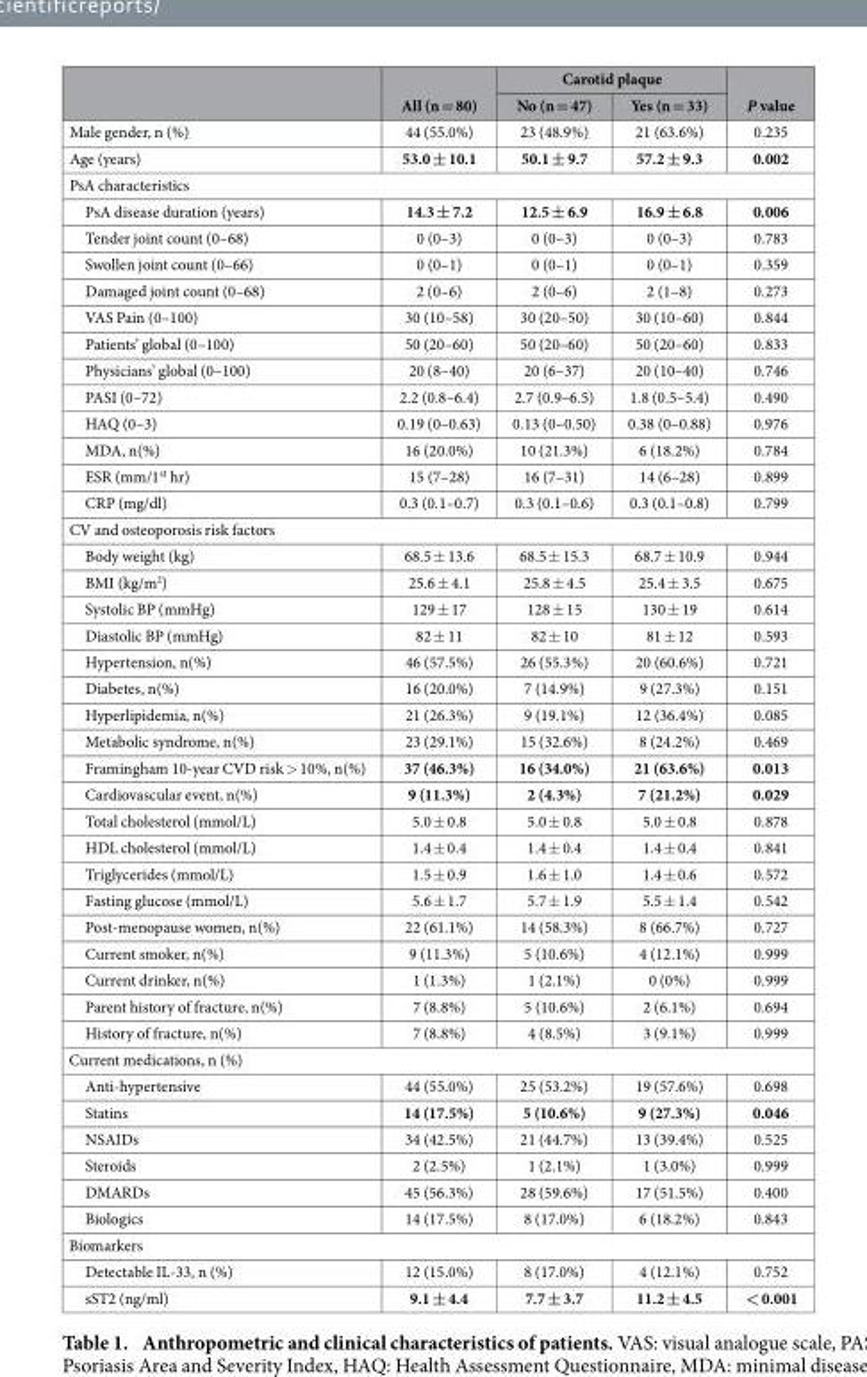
<table><thead><tr><td rowspan="2"></td><td rowspan="2">All (n = 80)</td><td colspan="2">Carotid plaque</td><td rowspan="2">P value</td></tr><tr><td>No (n = 47)</td><td>Yes (n = 33)</td></tr></thead><tbody><tr><td>Male gender, n (%)</td><td>44 (55.0%)</td><td>23 (48.9%)</td><td>21 (63.6%)</td><td>0.235</td></tr><tr><td>Age (years)</td><td>53.0 ± 10.1</td><td>50.1 ± 9.7</td><td>57.2 ± 9.3</td><td>0.002</td></tr><tr><td colspan="5">PsA characteristics</td></tr><tr><td>PsA disease duration (years)</td><td>14.3 ± 7.2</td><td>12.5 ± 6.9</td><td>16.9 ± 6.8</td><td>0.006</td></tr><tr><td>Tender joint count (0–68)</td><td>0 (0–3)</td><td>0 (0–3)</td><td>0 (0–3)</td><td>0.783</td></tr><tr><td>Swollen joint count (0–66)</td><td>0 (0–1)</td><td>0 (0–1)</td><td>0 (0–1)</td><td>0.359</td></tr><tr><td>Damaged joint count (0–68)</td><td>2 (0–6)</td><td>2 (0–6)</td><td>2 (1–8)</td><td>0.273</td></tr><tr><td>VAS Pain (0–100)</td><td>30 (10–58)</td><td>30 (20–50)</td><td>30 (10–60)</td><td>0.844</td></tr><tr><td>Patients’ global (0–100)</td><td>50 (20–60)</td><td>50 (20–60)</td><td>50 (20–60)</td><td>0.833</td></tr><tr><td>Physicians’ global (0–100)</td><td>20 (8–40)</td><td>20 (6–37)</td><td>20 (10–40)</td><td>0.746</td></tr><tr><td>PASI (0–72)</td><td>2.2 (0.8–6.4)</td><td>2.7 (0.9–6.5)</td><td>1.8 (0.5–5.4)</td><td>0.490</td></tr><tr><td>HAQ (0–3)</td><td>0.19 (0–0.63)</td><td>0.13 (0–0.50)</td><td>0.38 (0–0.88)</td><td>0.976</td></tr><tr><td>MDA, n(%)</td><td>16 (20.0%)</td><td>10 (21.3%)</td><td>6 (18.2%)</td><td>0.784</td></tr><tr><td>ESR (mm/1<sup>st</sup> hr)</td><td>15 (7–28)</td><td>16 (7–31)</td><td>14 (6–28)</td><td>0.899</td></tr><tr><td>CRP (mg/dl)</td><td>0.3 (0.1–0.7)</td><td>0.3 (0.1–0.6)</td><td>0.3 (0.1–0.8)</td><td>0.799</td></tr><tr><td colspan="5">CV and osteoporosis risk factors</td></tr><tr><td>Body weight (kg)</td><td>68.5 ± 13.6</td><td>68.5 ± 15.3</td><td>68.7 ± 10.9</td><td>0.944</td></tr><tr><td>BMI (kg/m<sup>2</sup>)</td><td>25.6 ± 4.1</td><td>25.8 ± 4.5</td><td>25.4 ± 3.5</td><td>0.675</td></tr><tr><td>Systolic BP (mmHg)</td><td>129 ± 17</td><td>128 ± 15</td><td>130 ± 19</td><td>0.614</td></tr><tr><td>Diastolic BP (mmHg)</td><td>82 ± 11</td><td>82 ± 10</td><td>81 ± 12</td><td>0.593</td></tr><tr><td>Hypertension, n(%)</td><td>46 (57.5%)</td><td>26 (55.3%)</td><td>20 (60.6%)</td><td>0.721</td></tr><tr><td>Diabetes, n(%)</td><td>16 (20.0%)</td><td>7 (14.9%)</td><td>9 (27.3%)</td><td>0.151</td></tr><tr><td>Hyperlipidemia, n(%)</td><td>21 (26.3%)</td><td>9 (19.1%)</td><td>12 (36.4%)</td><td>0.085</td></tr><tr><td>Metabolic syndrome, n(%)</td><td>23 (29.1%)</td><td>15 (32.6%)</td><td>8 (24.2%)</td><td>0.469</td></tr><tr><td>Framingham 10-year CVD risk &gt; 10%, n(%)</td><td>37 (46.3%)</td><td>16 (34.0%)</td><td>21 (63.6%)</td><td>0.013</td></tr><tr><td>Cardiovascular event, n(%)</td><td>9 (11.3%)</td><td>2 (4.3%)</td><td>7 (21.2%)</td><td>0.029</td></tr><tr><td>Total cholesterol (mmol/L)</td><td>5.0 ± 0.8</td><td>5.0 ± 0.8</td><td>5.0 ± 0.8</td><td>0.878</td></tr><tr><td>HDL cholesterol (mmol/L)</td><td>1.4 ± 0.4</td><td>1.4 ± 0.4</td><td>1.4 ± 0.4</td><td>0.841</td></tr><tr><td>Triglycerides (mmol/L)</td><td>1.5 ± 0.9</td><td>1.6 ± 1.0</td><td>1.4 ± 0.6</td><td>0.572</td></tr><tr><td>Fasting glucose (mmol/L)</td><td>5.6 ± 1.7</td><td>5.7 ± 1.9</td><td>5.5 ± 1.4</td><td>0.542</td></tr><tr><td>Post-menopause women, n(%)</td><td>22 (61.1%)</td><td>14 (58.3%)</td><td>8 (66.7%)</td><td>0.727</td></tr><tr><td>Current smoker, n(%)</td><td>9 (11.3%)</td><td>5 (10.6%)</td><td>4 (12.1%)</td><td>0.999</td></tr><tr><td>Current drinker, n(%)</td><td>1 (1.3%)</td><td>1 (2.1%)</td><td>0 (0%)</td><td>0.999</td></tr><tr><td>Parent history of fracture, n(%)</td><td>7 (8.8%)</td><td>5 (10.6%)</td><td>2 (6.1%)</td><td>0.694</td></tr><tr><td>History of fracture, n(%)</td><td>7 (8.8%)</td><td>4 (8.5%)</td><td>3 (9.1%)</td><td>0.999</td></tr><tr><td colspan="5">Current medications, n (%)</td></tr><tr><td>Anti-hypertensive</td><td>44 (55.0%)</td><td>25 (53.2%)</td><td>19 (57.6%)</td><td>0.698</td></tr><tr><td>Statins</td><td>14 (17.5%)</td><td>5 (10.6%)</td><td>9 (27.3%)</td><td>0.046</td></tr><tr><td>NSAIDs</td><td>34 (42.5%)</td><td>21 (44.7%)</td><td>13 (39.4%)</td><td>0.525</td></tr><tr><td>Steroids</td><td>2 (2.5%)</td><td>1 (2.1%)</td><td>1 (3.0%)</td><td>0.999</td></tr><tr><td>DMARDs</td><td>45 (56.3%)</td><td>28 (59.6%)</td><td>17 (51.5%)</td><td>0.400</td></tr><tr><td>Biologics</td><td>14 (17.5%)</td><td>8 (17.0%)</td><td>6 (18.2%)</td><td>0.843</td></tr><tr><td colspan="5">Biomarkers</td></tr><tr><td>Detectable IL-33, n (%)</td><td>12 (15.0%)</td><td>8 (17.0%)</td><td>4 (12.1%)</td><td>0.752</td></tr><tr><td>sST2 (ng/ml)</td><td>9.1 ± 4.4</td><td>7.7 ± 3.7</td><td>11.2 ± 4.5</td><td>&lt; 0.001</td></tr></tbody></table>